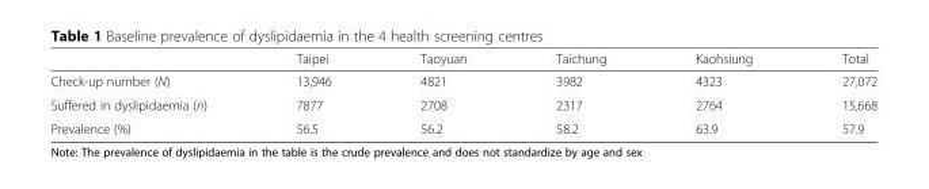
<table><thead><tr><td></td><td>Taipei</td><td>Taoyuan</td><td>Taichung</td><td>Kaohsiung</td><td>Total</td></tr></thead><tbody><tr><td>Check-up number (N)</td><td>13,946</td><td>4821</td><td>3982</td><td>4323</td><td>27,072</td></tr><tr><td>Suffered in dyslipidaemia (n)</td><td>7877</td><td>2708</td><td>2317</td><td>2764</td><td>15,668</td></tr><tr><td>Prevalence (%)</td><td>56.5</td><td>56.2</td><td>58.2</td><td>63.9</td><td>57.9</td></tr></tbody></table>